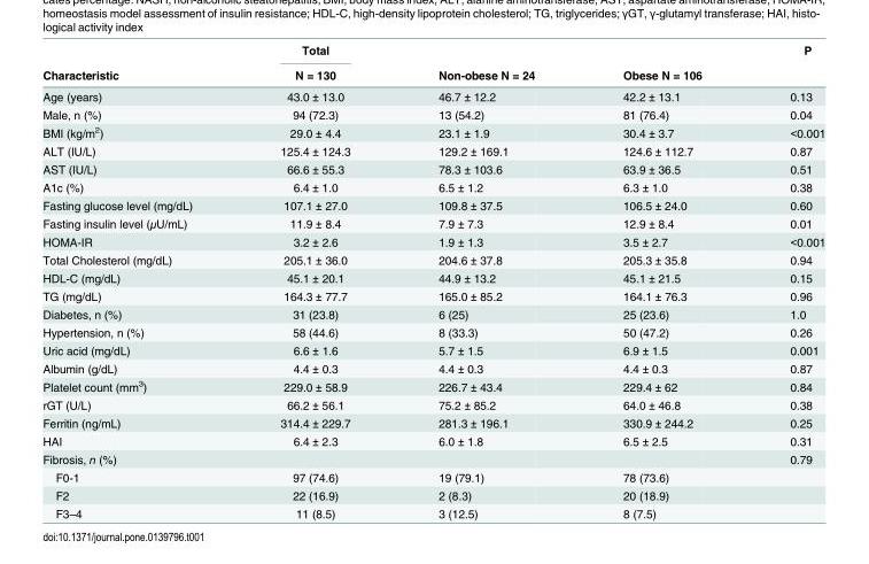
<table><thead><tr><td rowspan="2">Characteristic</td><td rowspan="2">Total N = 130</td><td rowspan="2">Non-obese N = 24</td><td rowspan="2">Obese N = 106</td><td rowspan="2">P</td></tr><tr></tr></thead><tbody><tr><td>Age (years)</td><td>43.0 ± 13.0</td><td>46.7 ± 12.2</td><td>42.2 ± 13.1</td><td>0.13</td></tr><tr><td>Male, n (%)</td><td>94 (72.3)</td><td>13 (54.2)</td><td>81 (76.4)</td><td>0.04</td></tr><tr><td>BMI (kg/m<sup>2</sup>)</td><td>29.0 ± 4.4</td><td>23.1 ± 1.9</td><td>30.4 ± 3.7</td><td>&lt;0.001</td></tr><tr><td>ALT (IU/L)</td><td>125.4 ± 124.3</td><td>129.2 ± 169.1</td><td>124.6 ± 112.7</td><td>0.87</td></tr><tr><td>AST (IU/L)</td><td>66.6 ± 55.3</td><td>78.3 ± 103.6</td><td>63.9 ± 36.5</td><td>0.51</td></tr><tr><td>A1c (%)</td><td>6.4 ± 1.0</td><td>6.5 ± 1.2</td><td>6.3 ± 1.0</td><td>0.38</td></tr><tr><td>Fasting glucose level (mg/dL)</td><td>107.1 ± 27.0</td><td>109.8 ± 37.5</td><td>106.5 ± 24.0</td><td>0.60</td></tr><tr><td>Fasting insulin level (μU/mL)</td><td>11.9 ± 8.4</td><td>7.9 ± 7.3</td><td>12.9 ± 8.4</td><td>0.01</td></tr><tr><td>HOMA-IR</td><td>3.2 ± 2.6</td><td>1.9 ± 1.3</td><td>3.5 ± 2.7</td><td>&lt;0.001</td></tr><tr><td>Total Cholesterol (mg/dL)</td><td>205.1 ± 36.0</td><td>204.6 ± 37.8</td><td>205.3 ± 35.8</td><td>0.94</td></tr><tr><td>HDL-C (mg/dL)</td><td>45.1 ± 20.1</td><td>44.9 ± 13.2</td><td>45.1 ± 21.5</td><td>0.15</td></tr><tr><td>TG (mg/dL)</td><td>164.3 ± 77.7</td><td>165.0 ± 85.2</td><td>164.1 ± 76.3</td><td>0.96</td></tr><tr><td>Diabetes, n (%)</td><td>31 (23.8)</td><td>6 (25)</td><td>25 (23.6)</td><td>1.0</td></tr><tr><td>Hypertension, n (%)</td><td>58 (44.6)</td><td>8 (33.3)</td><td>50 (47.2)</td><td>0.26</td></tr><tr><td>Uric acid (mg/dL)</td><td>6.6 ± 1.6</td><td>5.7 ± 1.5</td><td>6.9 ± 1.5</td><td>0.001</td></tr><tr><td>Albumin (g/dL)</td><td>4.4 ± 0.3</td><td>4.4 ± 0.3</td><td>4.4 ± 0.3</td><td>0.87</td></tr><tr><td>Platelet count (mm<sup>3</sup>)</td><td>229.0 ± 58.9</td><td>226.7 ± 43.4</td><td>229.4 ± 62</td><td>0.84</td></tr><tr><td>rGT (U/L)</td><td>66.2 ± 56.1</td><td>75.2 ± 85.2</td><td>64.0 ± 46.8</td><td>0.38</td></tr><tr><td>Ferritin (ng/mL)</td><td>314.4 ± 229.7</td><td>281.3 ± 196.1</td><td>330.9 ± 244.2</td><td>0.25</td></tr><tr><td>HAI</td><td>6.4 ± 2.3</td><td>6.0 ± 1.8</td><td>6.5 ± 2.5</td><td>0.31</td></tr><tr><td>Fibrosis, n (%)</td><td></td><td></td><td></td><td>0.79</td></tr><tr><td>F0-1</td><td>97 (74.6)</td><td>19 (79.1)</td><td>78 (73.6)</td><td></td></tr><tr><td>F2</td><td>22 (16.9)</td><td>2 (8.3)</td><td>20 (18.9)</td><td></td></tr><tr><td>F3–4</td><td>11 (8.5)</td><td>3 (12.5)</td><td>8 (7.5)</td><td></td></tr></tbody></table>